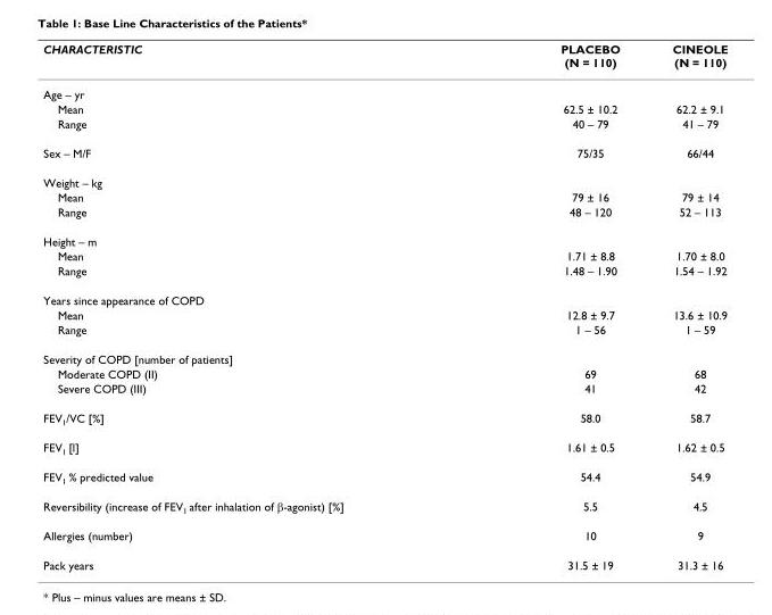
<table><thead><tr><td>CHARACTERISTIC</td><td>PLACEBO (N = 110)</td><td>CINEOLE (N = 110)</td></tr></thead><tbody><tr><td colspan="3">Age – yr</td></tr><tr><td>Mean</td><td>62.5 ± 10.2</td><td>62.2 ± 9.1</td></tr><tr><td>Range</td><td>40 – 79</td><td>41 – 79</td></tr><tr><td>Sex – M/F</td><td>75/35</td><td>66/44</td></tr><tr><td colspan="3">Weight – kg</td></tr><tr><td>Mean</td><td>79 ± 16</td><td>79 ± 14</td></tr><tr><td>Range</td><td>48 – 120</td><td>52 – 113</td></tr><tr><td colspan="3">Height – m</td></tr><tr><td>Mean</td><td>1.71 ± 8.8</td><td>1.70 ± 8.0</td></tr><tr><td>Range</td><td>1.48 – 1.90</td><td>1.54 – 1.92</td></tr><tr><td colspan="3">Years since appearance of COPD</td></tr><tr><td>Mean</td><td>12.8 ± 9.7</td><td>13.6 ± 10.9</td></tr><tr><td>Range</td><td>1 – 56</td><td>1 – 59</td></tr><tr><td colspan="3">Severity of COPD [number of patients]</td></tr><tr><td>Moderate COPD (II)</td><td>69</td><td>68</td></tr><tr><td>Severe COPD (III)</td><td>41</td><td>42</td></tr><tr><td>FEV<sub>1</sub>/VC [%]</td><td>58.0</td><td>58.7</td></tr><tr><td>FEV<sub>1</sub> [l]</td><td>1.61 ± 0.5</td><td>1.62 ± 0.5</td></tr><tr><td>FEV<sub>1</sub> % predicted value</td><td>54.4</td><td>54.9</td></tr><tr><td>Reversibility (increase of FEV<sub>1</sub> after inhalation of β-agonist) [%]</td><td>5.5</td><td>4.5</td></tr><tr><td>Allergies (number)</td><td>10</td><td>9</td></tr><tr><td>Pack years</td><td>31.5 ± 19</td><td>31.3 ± 16</td></tr></tbody></table>